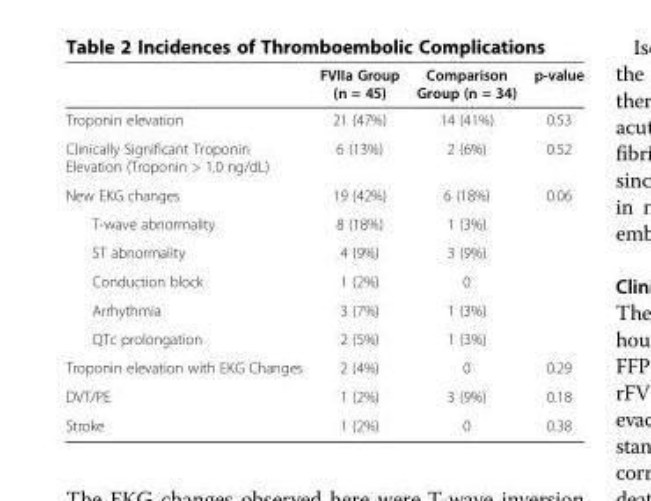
<table><thead><tr><td></td><td>FVIIa Group (n = 45)</td><td>Comparison Group (n = 34)</td><td>p-value</td></tr></thead><tbody><tr><td>Troponin elevation</td><td>21 (47%)</td><td>14 (41%)</td><td>0.53</td></tr><tr><td>Clinically Significant Troponin Elevation (Troponin &gt; 1.0 ng/dL)</td><td>6 (13%)</td><td>2 (6%)</td><td>0.52</td></tr><tr><td>New EKG changes</td><td>19 (42%)</td><td>6 (18%)</td><td>0.06</td></tr><tr><td>T-wave abnormality</td><td>8 (18%)</td><td>1 (3%)</td><td></td></tr><tr><td>ST abnormality</td><td>4 (9%)</td><td>3 (9%)</td><td></td></tr><tr><td>Conduction block</td><td>1 (2%)</td><td>0</td><td></td></tr><tr><td>Arrhythmia</td><td>3 (7%)</td><td>1 (3%)</td><td></td></tr><tr><td>QTc prolongation</td><td>2 (5%)</td><td>1 (3%)</td><td></td></tr><tr><td>Troponin elevation with EKG Changes</td><td>2 (4%)</td><td>0</td><td>0.29</td></tr><tr><td>DVT/PE</td><td>1 (2%)</td><td>3 (9%)</td><td>0.18</td></tr><tr><td>Stroke</td><td>1 (2%)</td><td>0</td><td>0.38</td></tr></tbody></table>